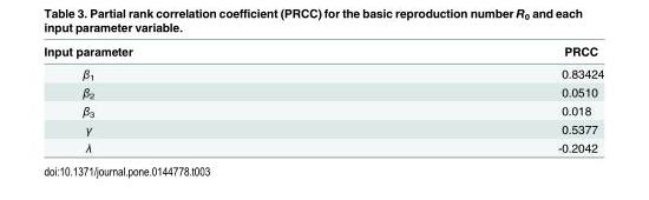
<table><thead><tr><td>Input parameter</td><td>PRCC</td></tr></thead><tbody><tr><td>β<sub>1</sub></td><td>0.83424</td></tr><tr><td>β<sub>2</sub></td><td>0.0510</td></tr><tr><td>β<sub>3</sub></td><td>0.018</td></tr><tr><td>γ</td><td>0.5377</td></tr><tr><td>λ</td><td>-0.2042</td></tr></tbody></table>